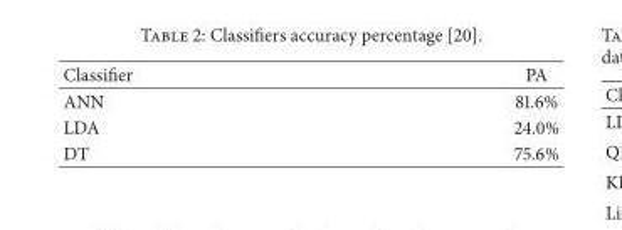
<table><thead><tr><td>Classifier</td><td>PA</td></tr></thead><tbody><tr><td>ANN</td><td>81.6%</td></tr><tr><td>LDA</td><td>24.0%</td></tr><tr><td>DT</td><td>75.6%</td></tr></tbody></table>